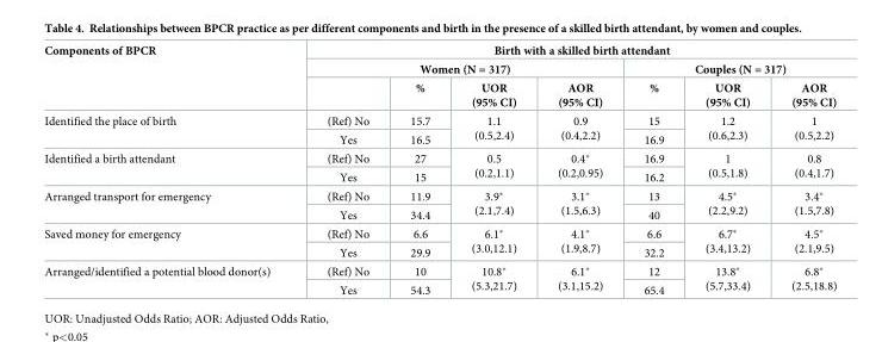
<table><thead><tr><td rowspan="3">Components of BPCR</td><td colspan="7">Birth with a skilled birth attendant</td></tr><tr><td colspan="4">Women (N = 317)</td><td colspan="3">Couples (N = 317)</td></tr><tr><td></td><td>%</td><td>UOR (95% CI)</td><td>AOR (95% CI)</td><td>%</td><td>UOR (95% CI)</td><td>AOR (95% CI)</td></tr></thead><tbody><tr><td rowspan="2">Identified the place of birth</td><td>(Ref) No</td><td>15.7</td><td rowspan="2">1.1 (0.5,2.4)</td><td rowspan="2">0.9 (0.4,2.2)</td><td>15</td><td rowspan="2">1.2 (0.6,2.3)</td><td rowspan="2">1 (0.5,2.2)</td></tr><tr><td>Yes</td><td>16.5</td><td>16.9</td></tr><tr><td rowspan="2">Identified a birth attendant</td><td>(Ref) No</td><td>27</td><td rowspan="2">0.5 (0.2,1.1)</td><td rowspan="2">0.4* (0.2,0.95)</td><td>16.9</td><td rowspan="2">1 (0.5,1.8)</td><td rowspan="2">0.8 (0.4,1.7)</td></tr><tr><td>Yes</td><td>15</td><td>16.2</td></tr><tr><td rowspan="2">Arranged transport for emergency</td><td>(Ref) No</td><td>11.9</td><td rowspan="2">3.9* (2.1,7.4)</td><td rowspan="2">3.1* (1.5,6.3)</td><td>13</td><td rowspan="2">4.5* (2.2,9.2)</td><td rowspan="2">3.4* (1.5,7.8)</td></tr><tr><td>Yes</td><td>34.4</td><td>40</td></tr><tr><td rowspan="2">Saved money for emergency</td><td>(Ref) No</td><td>6.6</td><td rowspan="2">6.1* (3.0,12.1)</td><td rowspan="2">4.1* (1.9,8.7)</td><td>6.6</td><td rowspan="2">6.7* (3.4,13.2)</td><td rowspan="2">4.5* (2.1,9.5)</td></tr><tr><td>Yes</td><td>29.9</td><td>32.2</td></tr><tr><td rowspan="2">Arranged/identified a potential blood donor(s)</td><td>(Ref) No</td><td>10</td><td rowspan="2">10.8* (5.3,21.7)</td><td rowspan="2">6.1* (3.1,15.2)</td><td>12</td><td rowspan="2">13.8* (5.7,33.4)</td><td rowspan="2">6.8* (2.5,18.8)</td></tr><tr><td>Yes</td><td>54.3</td><td>65.4</td></tr></tbody></table>